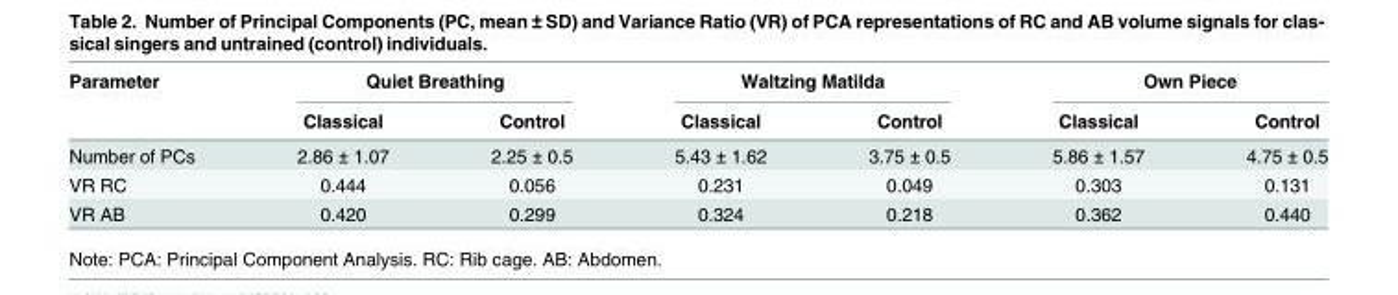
<table><thead><tr><td rowspan="2">Parameter</td><td colspan="2">Quiet Breathing</td><td colspan="2">Waltzing Matilda</td><td colspan="2">Own Piece</td></tr><tr><td>Classical</td><td>Control</td><td>Classical</td><td>Control</td><td>Classical</td><td>Control</td></tr></thead><tbody><tr><td>Number of PCs</td><td>2.86 ± 1.07</td><td>2.25 ± 0.5</td><td>5.43 ± 1.62</td><td>3.75 ± 0.5</td><td>5.86 ± 1.57</td><td>4.75 ± 0.5</td></tr><tr><td>VR RC</td><td>0.444</td><td>0.056</td><td>0.231</td><td>0.049</td><td>0.303</td><td>0.131</td></tr><tr><td>VR AB</td><td>0.420</td><td>0.299</td><td>0.324</td><td>0.218</td><td>0.362</td><td>0.440</td></tr></tbody></table>